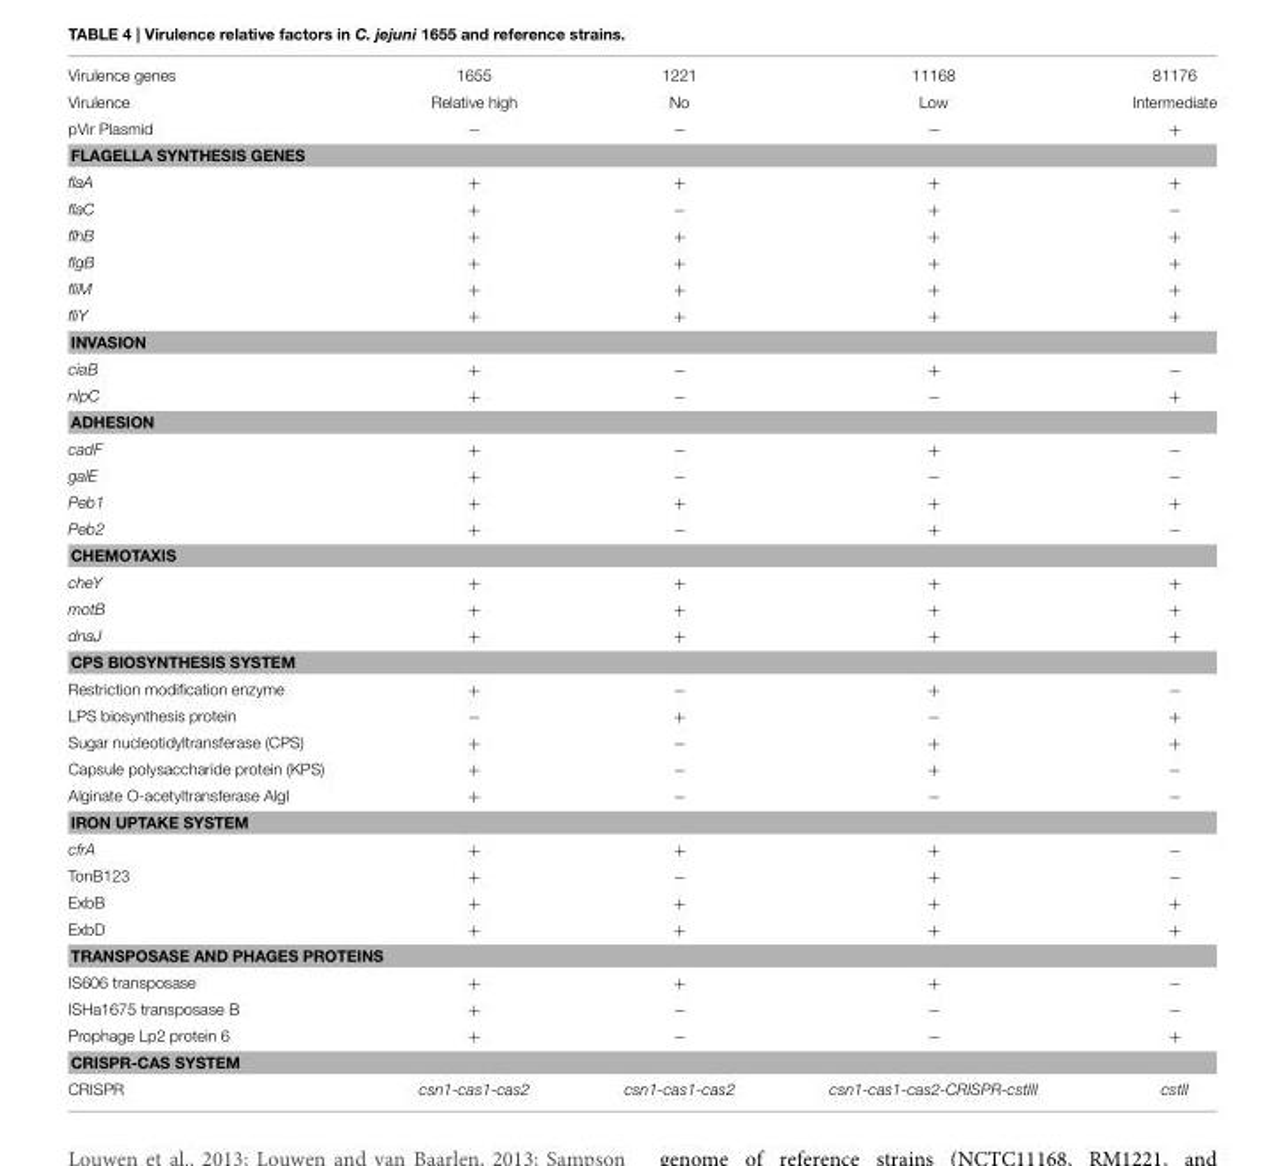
<table><tbody><tr><td>Virulence genes</td><td>1655</td><td>1221</td><td>11168</td><td>81176</td></tr><tr><td>Virulence</td><td>Relative high</td><td>No</td><td>Low</td><td>Intermediate</td></tr><tr><td>pVir Plasmid</td><td>−</td><td>−</td><td>−</td><td>+</td></tr><tr><td colspan="5">FLAGELLA SYNTHESIS GENES</td></tr><tr><td>flaA</td><td>+</td><td>+</td><td>+</td><td>+</td></tr><tr><td>flaC</td><td>+</td><td>−</td><td>+</td><td>−</td></tr><tr><td>flhB</td><td>+</td><td>+</td><td>+</td><td>+</td></tr><tr><td>flgB</td><td>+</td><td>+</td><td>+</td><td>+</td></tr><tr><td>fliM</td><td>+</td><td>+</td><td>+</td><td>+</td></tr><tr><td>fliY</td><td>+</td><td>+</td><td>+</td><td>+</td></tr><tr><td colspan="5">INVASION</td></tr><tr><td>ciaB</td><td>+</td><td>−</td><td>+</td><td>−</td></tr><tr><td>nlpC</td><td>+</td><td>−</td><td>−</td><td>+</td></tr><tr><td colspan="5">ADHESION</td></tr><tr><td>cadF</td><td>+</td><td>−</td><td>+</td><td>−</td></tr><tr><td>galE</td><td>+</td><td>−</td><td>−</td><td>−</td></tr><tr><td>Peb1</td><td>+</td><td>+</td><td>+</td><td>+</td></tr><tr><td>Peb2</td><td>+</td><td>−</td><td>+</td><td>−</td></tr><tr><td colspan="5">CHEMOTAXIS</td></tr><tr><td>cheY</td><td>+</td><td>+</td><td>+</td><td>+</td></tr><tr><td>motB</td><td>+</td><td>+</td><td>+</td><td>+</td></tr><tr><td>dnaJ</td><td>+</td><td>+</td><td>+</td><td>+</td></tr><tr><td colspan="5">CPS BIOSYNTHESIS SYSTEM</td></tr><tr><td>Restriction modification enzyme</td><td>+</td><td>−</td><td>+</td><td>−</td></tr><tr><td>LPS biosynthesis protein</td><td>−</td><td>+</td><td>−</td><td>+</td></tr><tr><td>Sugar nucleotidyltransferase (CPS)</td><td>+</td><td>−</td><td>+</td><td>+</td></tr><tr><td>Capsule polysaccharide protein (KPS)</td><td>+</td><td>−</td><td>+</td><td>−</td></tr><tr><td>Alginate O-acetyltransferase AlgI</td><td>+</td><td>−</td><td>−</td><td>−</td></tr><tr><td colspan="5">IRON UPTAKE SYSTEM</td></tr><tr><td>cfrA</td><td>+</td><td>+</td><td>+</td><td>−</td></tr><tr><td>TonB123</td><td>+</td><td>−</td><td>+</td><td>−</td></tr><tr><td>ExbB</td><td>+</td><td>+</td><td>+</td><td>+</td></tr><tr><td>ExbD</td><td>+</td><td>+</td><td>+</td><td>+</td></tr><tr><td colspan="5">TRANSPOSASE AND PHAGES PROTEINS</td></tr><tr><td>IS606 transposase</td><td>+</td><td>+</td><td>+</td><td>−</td></tr><tr><td>ISHa1675 transposase B</td><td>+</td><td>−</td><td>−</td><td>−</td></tr><tr><td>Prophage Lp2 protein 6</td><td>+</td><td>−</td><td>−</td><td>+</td></tr><tr><td colspan="5">CRISPR-CAS SYSTEM</td></tr><tr><td>CRISPR</td><td>csn1-cas1-cas2</td><td>csn1-cas1-cas2</td><td>csn1-cas1-cas2-CRISPR-cstIII</td><td>cstII</td></tr></tbody></table>